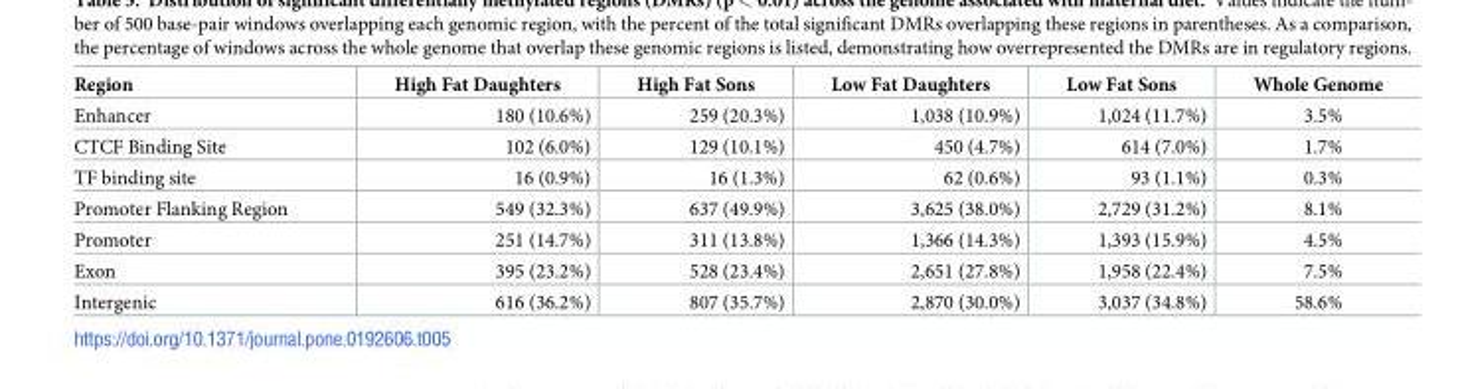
<table><thead><tr><td>Region</td><td>High Fat Daughters</td><td>High Fat Sons</td><td>Low Fat Daughters</td><td>Low Fat Sons</td><td>Whole Genome</td></tr></thead><tbody><tr><td>Enhancer</td><td>180 (10.6%)</td><td>259 (20.3%)</td><td>1,038 (10.9%)</td><td>1,024 (11.7%)</td><td>3.5%</td></tr><tr><td>CTCF Binding Site</td><td>102 (6.0%)</td><td>129 (10.1%)</td><td>450 (4.7%)</td><td>614 (7.0%)</td><td>1.7%</td></tr><tr><td>TF binding site</td><td>16 (0.9%)</td><td>16 (1.3%)</td><td>62 (0.6%)</td><td>93 (1.1%)</td><td>0.3%</td></tr><tr><td>Promoter Flanking Region</td><td>549 (32.3%)</td><td>637 (49.9%)</td><td>3,625 (38.0%)</td><td>2,729 (31.2%)</td><td>8.1%</td></tr><tr><td>Promoter</td><td>251 (14.7%)</td><td>311 (13.8%)</td><td>1,366 (14.3%)</td><td>1,393 (15.9%)</td><td>4.5%</td></tr><tr><td>Exon</td><td>395 (23.2%)</td><td>528 (23.4%)</td><td>2,651 (27.8%)</td><td>1,958 (22.4%)</td><td>7.5%</td></tr><tr><td>Intergenic</td><td>616 (36.2%)</td><td>807 (35.7%)</td><td>2,870 (30.0%)</td><td>3,037 (34.8%)</td><td>58.6%</td></tr></tbody></table>